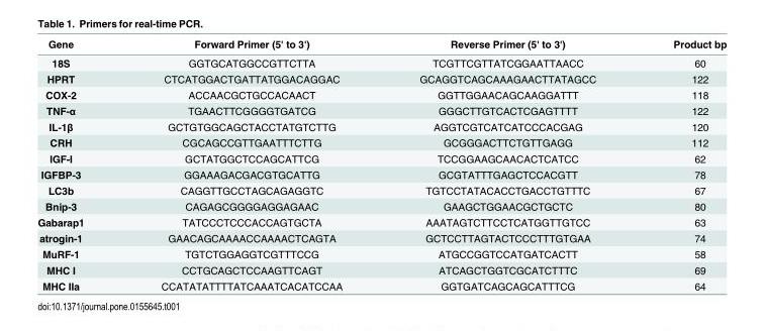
<table><thead><tr><td>Gene</td><td>Forward Primer (5&#x27; to 3&#x27;)</td><td>Reverse Primer (5&#x27; to 3&#x27;)</td><td>Product bp</td></tr></thead><tbody><tr><td>18S</td><td>GGTGCATGGCCGTTCTTA</td><td>TCGTTCGTTATCGGAATTAACC</td><td>60</td></tr><tr><td>HPRT</td><td>CTCATGGACTGATTATGGACAGGAC</td><td>GCAGGTCAGCAAAGAACTTATAGCC</td><td>122</td></tr><tr><td>COX-2</td><td>ACCAACGCTGCCACAACT</td><td>GGTTGGAACAGCAAGGATTT</td><td>118</td></tr><tr><td>TNF-α</td><td>TGAACTTCGGGGTGATCG</td><td>GGGCTTGTCACTCGAGTTTT</td><td>122</td></tr><tr><td>IL-1β</td><td>GCTGTGGCAGCTACCTATGTCTTG</td><td>AGGTCGTCATCATCCCACGAG</td><td>120</td></tr><tr><td>CRH</td><td>CGCAGCCGTTGAATTTCTTG</td><td>GCGGGACTTCTGTTGAGG</td><td>112</td></tr><tr><td>IGF-I</td><td>GCTATGGCTCCAGCATTCG</td><td>TCCGGAAGCAACACTCATCC</td><td>62</td></tr><tr><td>IGFBP-3</td><td>GGAAAGACGACGTGCATTG</td><td>GCGTATTTGAGCTCCACGTT</td><td>78</td></tr><tr><td>LC3b</td><td>CAGGTTGCCTAGCAGAGGTC</td><td>TGTCCTATACACCTGACCTGTTTC</td><td>67</td></tr><tr><td>Bnip-3</td><td>CAGAGCGGGGAGGAGAAC</td><td>GAAGCTGGAACGCTGCTC</td><td>80</td></tr><tr><td>Gabarap1</td><td>TATCCCTCCCACCAGTGCTA</td><td>AAATAGTCTTCCTCATGGTTGTCC</td><td>63</td></tr><tr><td>atrogin-1</td><td>GAACAGCAAAACCAAAACTCAGTA</td><td>GCTCCTTAGTACTCCCTTTGTGAA</td><td>74</td></tr><tr><td>MuRF-1</td><td>TGTCTGGAGGTCGTTTCCG</td><td>ATGCCGGTCCATGATCACTT</td><td>58</td></tr><tr><td>MHC I</td><td>CCTGCAGCTCCAAGTTCAGT</td><td>ATCAGCTGGTCGCATCTTTC</td><td>69</td></tr><tr><td>MHC IIa</td><td>CCATATATTTTATCAAATCACATCCAA</td><td>GGTGATCAGCAGCATTTCG</td><td>64</td></tr></tbody></table>